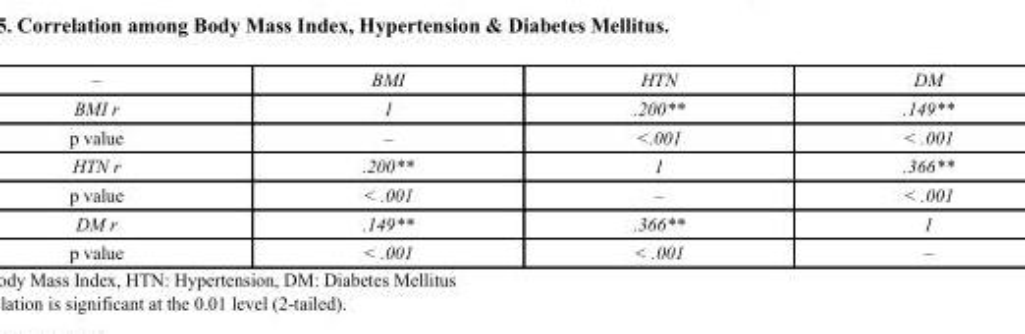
<table><tbody><tr><td>–</td><td>BMI</td><td>HTN</td><td>DM</td></tr><tr><td>BMI r</td><td>1</td><td>.200**</td><td>.149**</td></tr><tr><td>p value</td><td>–</td><td>&lt;.001</td><td>&lt; .001</td></tr><tr><td>HTN r</td><td>.200**</td><td>1</td><td>.366**</td></tr><tr><td>p value</td><td>&lt; .001</td><td>–</td><td>&lt; .001</td></tr><tr><td>DM r</td><td>.149**</td><td>.366**</td><td>1</td></tr><tr><td>p value</td><td>&lt; .001</td><td>&lt; .001</td><td>–</td></tr></tbody></table>